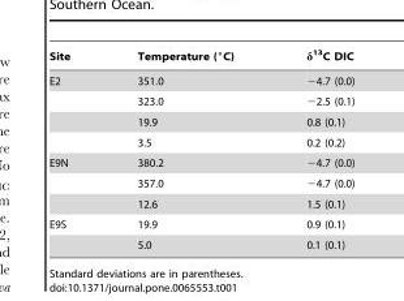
<table><thead><tr><td>Site</td><td>Temperature (°C)</td><td>δ<sup>13</sup>C DIC</td></tr></thead><tbody><tr><td rowspan="4">E2</td><td>351.0</td><td>−4.7 (0.0)</td></tr><tr><td>323.0</td><td>−2.5 (0.1)</td></tr><tr><td>19.9</td><td>0.8 (0.1)</td></tr><tr><td>3.5</td><td>0.2 (0.2)</td></tr><tr><td rowspan="3">E9N</td><td>380.2</td><td>−4.7 (0.0)</td></tr><tr><td>357.0</td><td>−4.7 (0.0)</td></tr><tr><td>12.6</td><td>1.5 (0.1)</td></tr><tr><td rowspan="2">E9S</td><td>19.9</td><td>0.9 (0.1)</td></tr><tr><td>5.0</td><td>0.1 (0.1)</td></tr></tbody></table>